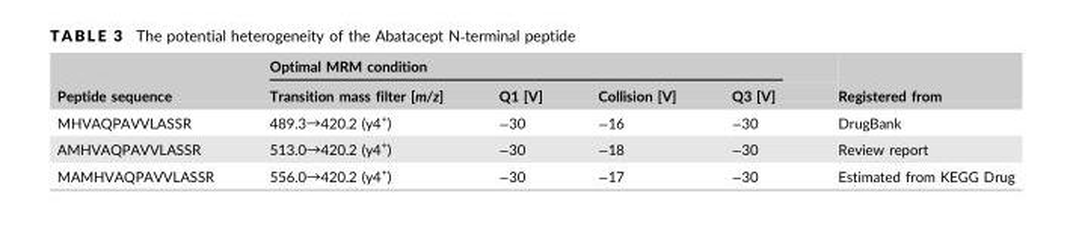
<table><thead><tr><td rowspan="2">Peptide sequence</td><td colspan="4">Optimal MRM condition</td><td rowspan="2">Registered from</td></tr><tr><td>Transition mass filter [m/z]</td><td>Q1 [V]</td><td>Collision [V]</td><td>Q3 [V]</td></tr></thead><tbody><tr><td>MHVAQPAVVLASSR</td><td>489.3→420.2 (y4<sup>+</sup>)</td><td>−30</td><td>−16</td><td>−30</td><td>DrugBank</td></tr><tr><td>AMHVAQPAVVLASSR</td><td>513.0→420.2 (y4<sup>+</sup>)</td><td>−30</td><td>−18</td><td>−30</td><td>Review report</td></tr><tr><td>MAMHVAQPAVVLASSR</td><td>556.0→420.2 (y4<sup>+</sup>)</td><td>−30</td><td>−17</td><td>−30</td><td>Estimated from KEGG Drug</td></tr></tbody></table>